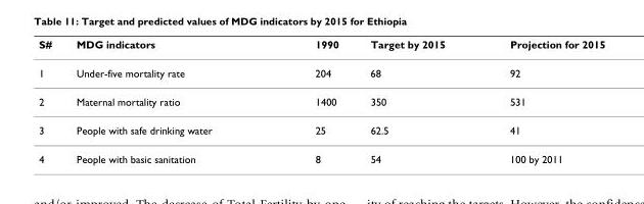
<table><thead><tr><td>S#</td><td>MDG indicators</td><td>1990</td><td>Target by 2015</td><td>Projection for 2015</td></tr></thead><tbody><tr><td>1</td><td>Under-five mortality rate</td><td>204</td><td>68</td><td>92</td></tr><tr><td>2</td><td>Maternal mortality ratio</td><td>1400</td><td>350</td><td>531</td></tr><tr><td>3</td><td>People with safe drinking water</td><td>25</td><td>62.5</td><td>41</td></tr><tr><td>4</td><td>People with basic sanitation</td><td>8</td><td>54</td><td>100 by 2011</td></tr></tbody></table>